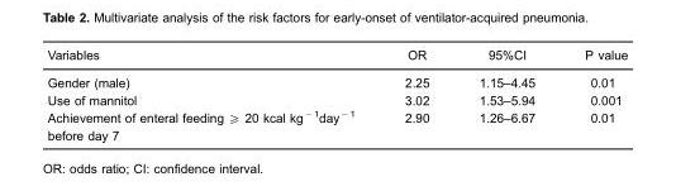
<table><thead><tr><td>Variables</td><td>OR</td><td>95%CI</td><td>P value</td></tr></thead><tbody><tr><td>Gender (male)</td><td>2.25</td><td>1.15–4.45</td><td>0.01</td></tr><tr><td>Use of mannitol</td><td>3.02</td><td>1.53–5.94</td><td>0.001</td></tr><tr><td>Achievement of enteral feeding ≥ 20 kcal kg − 1day − 1 before day 7</td><td>2.90</td><td>1.26–6.67</td><td>0.01</td></tr></tbody></table>